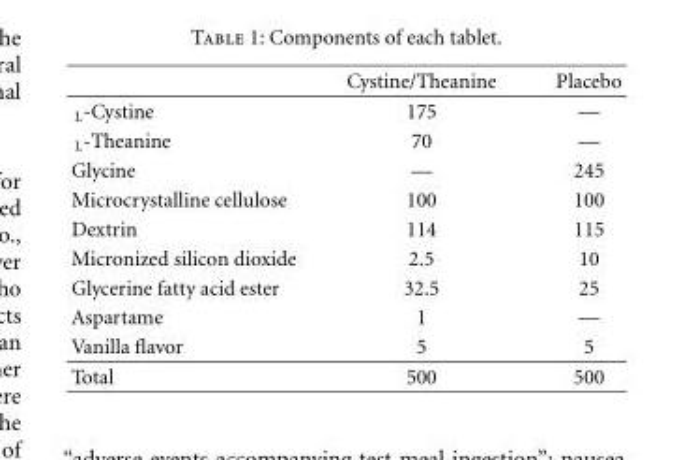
<table><thead><tr><td></td><td>Cystine/Theanine</td><td>Placebo</td></tr></thead><tbody><tr><td><sub>L</sub>-Cystine</td><td>175</td><td>—</td></tr><tr><td><sub>L</sub>-Theanine</td><td>70</td><td>—</td></tr><tr><td>Glycine</td><td>—</td><td>245</td></tr><tr><td>Microcrystalline cellulose</td><td>100</td><td>100</td></tr><tr><td>Dextrin</td><td>114</td><td>115</td></tr><tr><td>Micronized silicon dioxide</td><td>2.5</td><td>10</td></tr><tr><td>Glycerine fatty acid ester</td><td>32.5</td><td>25</td></tr><tr><td>Aspartame</td><td>1</td><td>—</td></tr><tr><td>Vanilla flavor</td><td>5</td><td>5</td></tr><tr><td>Total</td><td>500</td><td>500</td></tr></tbody></table>